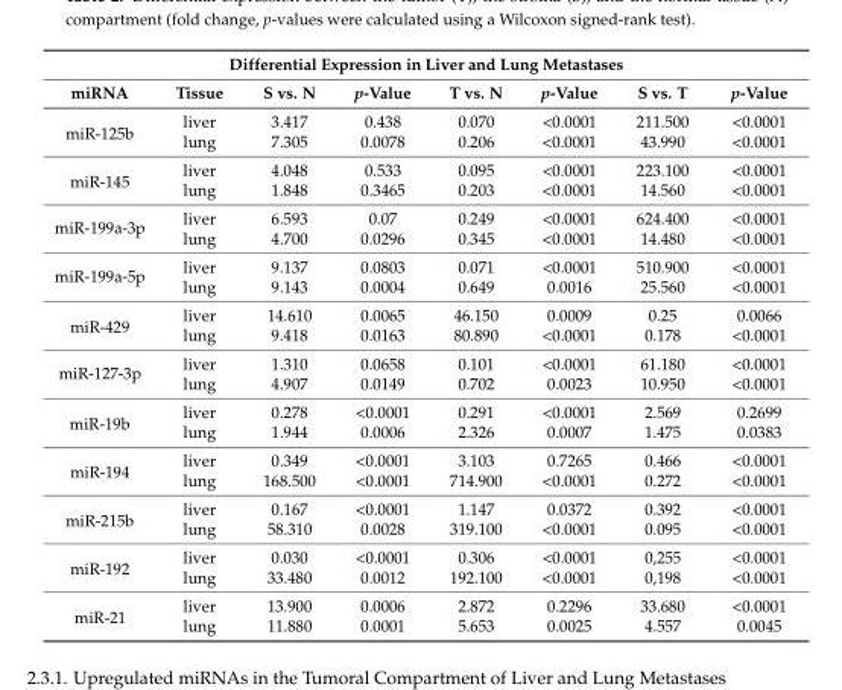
<table><thead><tr><td colspan="8">Differential Expression in Liver and Lung Metastases</td></tr><tr><td>miRNA</td><td>Tissue</td><td>S vs. N</td><td>p-Value</td><td>T vs. N</td><td>p-Value</td><td>S vs. T</td><td>p-Value</td></tr></thead><tbody><tr><td rowspan="2">miR-125b</td><td>liver</td><td>3.417</td><td>0.438</td><td>0.070</td><td>&lt;0.0001</td><td>211.500</td><td>&lt;0.0001</td></tr><tr><td>lung</td><td>7.305</td><td>0.0078</td><td>0.206</td><td>&lt;0.0001</td><td>43.990</td><td>&lt;0.0001</td></tr><tr><td rowspan="2">miR-145</td><td>liver</td><td>4.048</td><td>0.533</td><td>0.095</td><td>&lt;0.0001</td><td>223.100</td><td>&lt;0.0001</td></tr><tr><td>lung</td><td>1.848</td><td>0.3465</td><td>0.203</td><td>&lt;0.0001</td><td>14.560</td><td>&lt;0.0001</td></tr><tr><td rowspan="2">miR-199a-3p</td><td>liver</td><td>6.593</td><td>0.07</td><td>0.249</td><td>&lt;0.0001</td><td>624.400</td><td>&lt;0.0001</td></tr><tr><td>lung</td><td>4.700</td><td>0.0296</td><td>0.345</td><td>&lt;0.0001</td><td>14.480</td><td>&lt;0.0001</td></tr><tr><td rowspan="2">miR-199a-5p</td><td>liver</td><td>9.137</td><td>0.0803</td><td>0.071</td><td>&lt;0.0001</td><td>510.900</td><td>&lt;0.0001</td></tr><tr><td>lung</td><td>9.143</td><td>0.0004</td><td>0.649</td><td>0.0016</td><td>25.560</td><td>&lt;0.0001</td></tr><tr><td rowspan="2">miR-429</td><td>liver</td><td>14.610</td><td>0.0065</td><td>46.150</td><td>0.0009</td><td>0.25</td><td>0.0066</td></tr><tr><td>lung</td><td>9.418</td><td>0.0163</td><td>80.890</td><td>&lt;0.0001</td><td>0.178</td><td>&lt;0.0001</td></tr><tr><td rowspan="2">miR-127-3p</td><td>liver</td><td>1.310</td><td>0.0658</td><td>0.101</td><td>&lt;0.0001</td><td>61.180</td><td>&lt;0.0001</td></tr><tr><td>lung</td><td>4.907</td><td>0.0149</td><td>0.702</td><td>0.0023</td><td>10.950</td><td>&lt;0.0001</td></tr><tr><td rowspan="2">miR-19b</td><td>liver</td><td>0.278</td><td>&lt;0.0001</td><td>0.291</td><td>&lt;0.0001</td><td>2.569</td><td>0.2699</td></tr><tr><td>lung</td><td>1.944</td><td>0.0006</td><td>2.326</td><td>0.0007</td><td>1.475</td><td>0.0383</td></tr><tr><td rowspan="2">miR-194</td><td>liver</td><td>0.349</td><td>&lt;0.0001</td><td>3.103</td><td>0.7265</td><td>0.466</td><td>&lt;0.0001</td></tr><tr><td>lung</td><td>168.500</td><td>&lt;0.0001</td><td>714.900</td><td>&lt;0.0001</td><td>0.272</td><td>&lt;0.0001</td></tr><tr><td rowspan="2">miR-215b</td><td>liver</td><td>0.167</td><td>&lt;0.0001</td><td>1.147</td><td>0.0372</td><td>0.392</td><td>&lt;0.0001</td></tr><tr><td>lung</td><td>58.310</td><td>0.0028</td><td>319.100</td><td>&lt;0.0001</td><td>0.095</td><td>&lt;0.0001</td></tr><tr><td rowspan="2">miR-192</td><td>liver</td><td>0.030</td><td>&lt;0.0001</td><td>0.306</td><td>&lt;0.0001</td><td>0,255</td><td>&lt;0.0001</td></tr><tr><td>lung</td><td>33.480</td><td>0.0012</td><td>192.100</td><td>&lt;0.0001</td><td>0,198</td><td>&lt;0.0001</td></tr><tr><td rowspan="2">miR-21</td><td>liver</td><td>13.900</td><td>0.0006</td><td>2.872</td><td>0.2296</td><td>33.680</td><td>&lt;0.0001</td></tr><tr><td>lung</td><td>11.880</td><td>0.0001</td><td>5.653</td><td>0.0025</td><td>4.557</td><td>0.0045</td></tr></tbody></table>